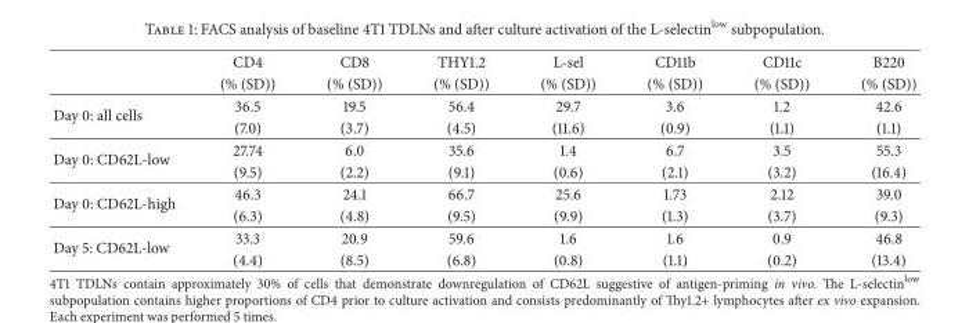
<table><thead><tr><td rowspan="2"></td><td rowspan="2">CD4 (% (SD))</td><td rowspan="2">CD8 (% (SD))</td><td rowspan="2">THY1.2 (% (SD))</td><td rowspan="2">L-sel (% (SD))</td><td rowspan="2">CD11b (% (SD))</td><td rowspan="2">CD11c (% (SD))</td><td rowspan="2">B220 (% (SD))</td></tr><tr></tr></thead><tbody><tr><td rowspan="2">Day 0: all cells</td><td>36.5</td><td>19.5</td><td>56.4</td><td>29.7</td><td>3.6</td><td>1.2</td><td>42.6</td></tr><tr><td>(7.0)</td><td>(3.7)</td><td>(4.5)</td><td>(11.6)</td><td>(0.9)</td><td>(1.1)</td><td>(1.1)</td></tr><tr><td rowspan="2">Day 0: CD62L-low</td><td>27.74</td><td>6.0</td><td>35.6</td><td>1.4</td><td>6.7</td><td>3.5</td><td>55.3</td></tr><tr><td>(9.5)</td><td>(2.2)</td><td>(9.1)</td><td>(0.6)</td><td>(2.1)</td><td>(3.2)</td><td>(16.4)</td></tr><tr><td rowspan="2">Day 0: CD62L-high</td><td>46.3</td><td>24.1</td><td>66.7</td><td>25.6</td><td>1.73</td><td>2.12</td><td>39.0</td></tr><tr><td>(6.3)</td><td>(4.8)</td><td>(9.5)</td><td>(9.9)</td><td>(1.3)</td><td>(3.7)</td><td>(9.3)</td></tr><tr><td rowspan="2">Day 5: CD62L-low</td><td>33.3</td><td>20.9</td><td>59.6</td><td>1.6</td><td>1.6</td><td>0.9</td><td>46.8</td></tr><tr><td>(4.4)</td><td>(8.5)</td><td>(6.8)</td><td>(0.8)</td><td>(1.1)</td><td>(0.2)</td><td>(13.4)</td></tr></tbody></table>